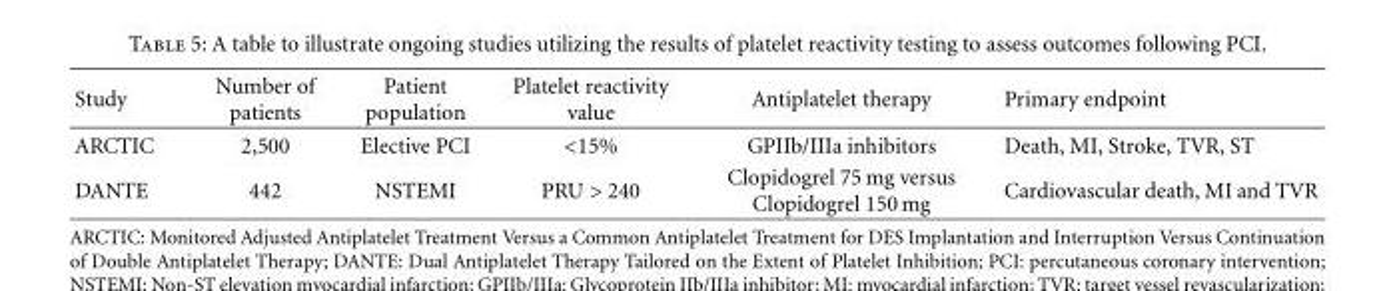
<table><thead><tr><td>Study</td><td>Number of patients</td><td>Patient population</td><td>Platelet reactivity value</td><td>Antiplatelet therapy</td><td>Primary endpoint</td></tr></thead><tbody><tr><td>ARCTIC</td><td>2,500</td><td>Elective PCI</td><td>&lt;15%</td><td>GPIIb/IIIa inhibitors</td><td>Death, MI, Stroke, TVR, ST</td></tr><tr><td>DANTE</td><td>442</td><td>NSTEMI</td><td>PRU &gt; 240</td><td>Clopidogrel 75 mg versus Clopidogrel 150 mg</td><td>Cardiovascular death, MI and TVR</td></tr></tbody></table>